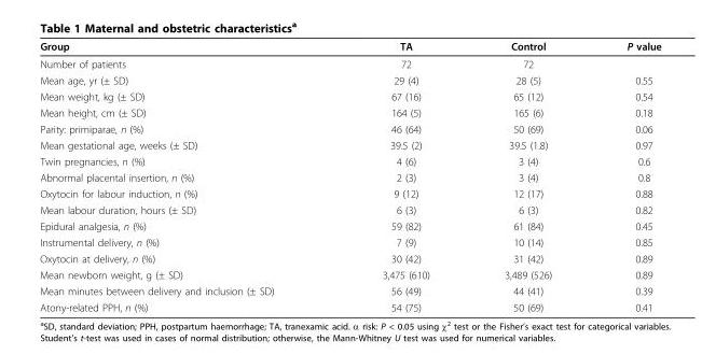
<table><thead><tr><td>Group</td><td>TA</td><td>Control</td><td>P value</td></tr></thead><tbody><tr><td>Number of patients</td><td>72</td><td>72</td><td></td></tr><tr><td>Mean age, yr (± SD)</td><td>29 (4)</td><td>28 (5)</td><td>0.55</td></tr><tr><td>Mean weight, kg (± SD)</td><td>67 (16)</td><td>65 (12)</td><td>0.54</td></tr><tr><td>Mean height, cm (± SD)</td><td>164 (5)</td><td>165 (6)</td><td>0.18</td></tr><tr><td>Parity: primiparae, n (%)</td><td>46 (64)</td><td>50 (69)</td><td>0.06</td></tr><tr><td>Mean gestational age, weeks (± SD)</td><td>39.5 (2)</td><td>39.5 (1.8)</td><td>0.97</td></tr><tr><td>Twin pregnancies, n (%)</td><td>4 (6)</td><td>3 (4)</td><td>0.6</td></tr><tr><td>Abnormal placental insertion, n (%)</td><td>2 (3)</td><td>3 (4)</td><td>0.8</td></tr><tr><td>Oxytocin for labour induction, n (%)</td><td>9 (12)</td><td>12 (17)</td><td>0.88</td></tr><tr><td>Mean labour duration, hours (± SD)</td><td>6 (3)</td><td>6 (3)</td><td>0.82</td></tr><tr><td>Epidural analgesia, n (%)</td><td>59 (82)</td><td>61 (84)</td><td>0.45</td></tr><tr><td>Instrumental delivery, n (%)</td><td>7 (9)</td><td>10 (14)</td><td>0.85</td></tr><tr><td>Oxytocin at delivery, n (%)</td><td>30 (42)</td><td>31 (42)</td><td>0.89</td></tr><tr><td>Mean newborn weight, g (± SD)</td><td>3,475 (610)</td><td>3,489 (526)</td><td>0.89</td></tr><tr><td>Mean minutes between delivery and inclusion (± SD)</td><td>56 (49)</td><td>44 (41)</td><td>0.39</td></tr><tr><td>Atony-related PPH, n (%)</td><td>54 (75)</td><td>50 (69)</td><td>0.41</td></tr></tbody></table>